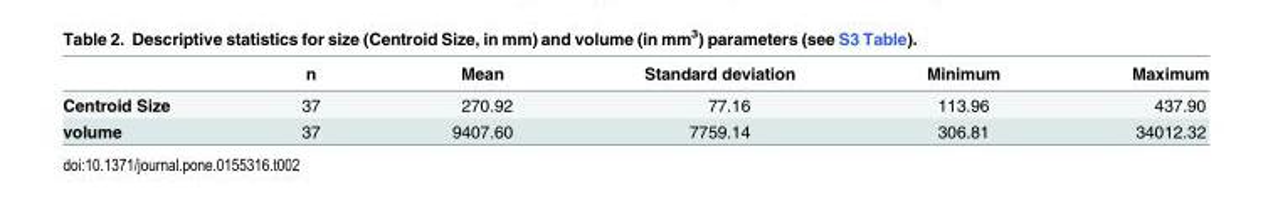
<table><thead><tr><td></td><td>n</td><td>Mean</td><td>Standard deviation</td><td>Minimum</td><td>Maximum</td></tr></thead><tbody><tr><td>Centroid Size</td><td>37</td><td>270.92</td><td>77.16</td><td>113.96</td><td>437.90</td></tr><tr><td>volume</td><td>37</td><td>9407.60</td><td>7759.14</td><td>306.81</td><td>34012.32</td></tr></tbody></table>